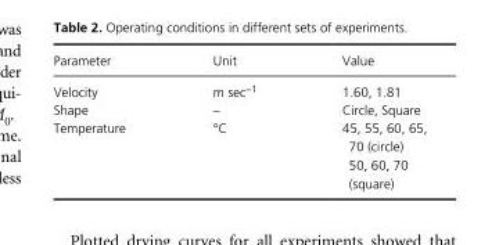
<table><thead><tr><td>Parameter</td><td>Unit</td><td>Value</td></tr></thead><tbody><tr><td>Velocity</td><td>m sec<sup>−1</sup></td><td>1.60, 1.81</td></tr><tr><td>Shape</td><td>–</td><td>Circle, Square</td></tr><tr><td>Temperature</td><td>°C</td><td>45, 55, 60, 65, 70 (circle) 50, 60, 70 (square)</td></tr></tbody></table>